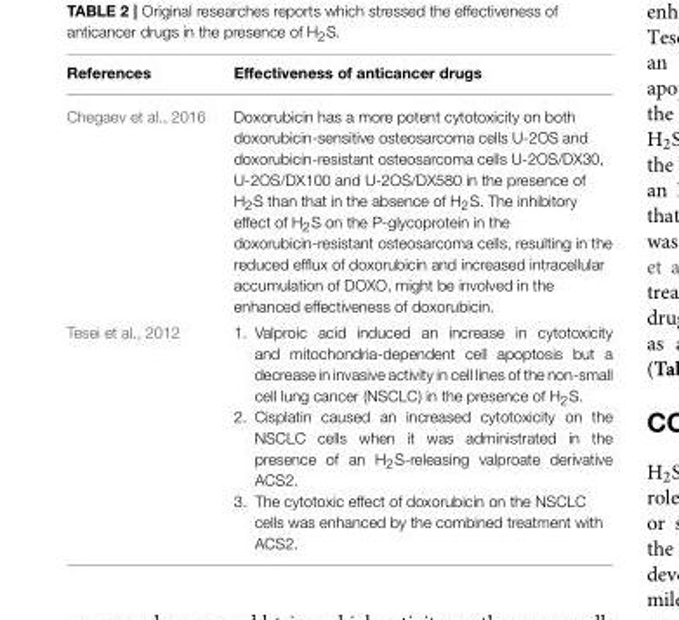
<table><thead><tr><td>References</td><td>Effectiveness of anticancer drugs</td></tr></thead><tbody><tr><td>Chegaev et al., 2016</td><td>Doxorubicin has a more potent cytotoxicity on both doxorubicin-sensitive osteosarcoma cells U-2OS and doxorubicin-resistant osteosarcoma cells U-2OS/DX30, U-2OS/DX100 and U-2OS/DX580 in the presence of H<sub>2</sub>S than that in the absence of H<sub>2</sub>S. The inhibitory effect of H<sub>2</sub>S on the P-glycoprotein in the doxorubicin-resistant osteosarcoma cells, resulting in the reduced efflux of doxorubicin and increased intracellular accumulation of DOXO, might be involved in the enhanced effectiveness of doxorubicin.</td></tr><tr><td>Tesei et al., 2012</td><td>1. Valproic acid induced an increase in cytotoxicity and mitochondria-dependent cell apoptosis but a decrease in invasive activity in cell lines of the non-small cell lung cancer (NSCLC) in the presence of H<sub>2</sub>S. 2. Cisplatin caused an increased cytotoxicity on the NSCLC cells when it was administrated in the presence of an H<sub>2</sub>S-releasing valproate derivative ACS2. 3. The cytotoxic effect of doxorubicin on the NSCLC cells was enhanced by the combined treatment with ACS2.</td></tr></tbody></table>